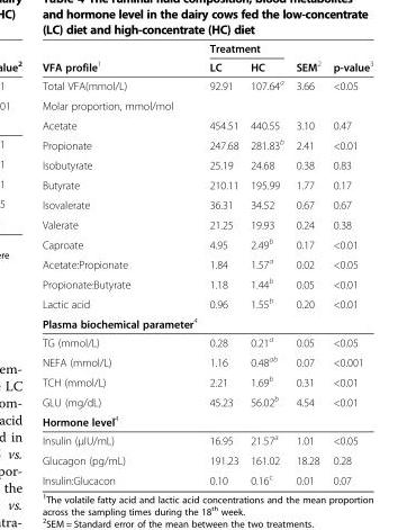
<table><thead><tr><td rowspan="2">VFA profile<sup>1</sup></td><td colspan="2">Treatment</td><td rowspan="2">SEM<sup>2</sup></td><td rowspan="2">p-value<sup>3</sup></td></tr><tr><td>LC</td><td>HC</td></tr></thead><tbody><tr><td>Total VFA(mmol/L)</td><td>92.91</td><td>107.64<sup>a</sup></td><td>3.66</td><td>&lt;0.05</td></tr><tr><td colspan="5">Molar proportion, mmol/mol</td></tr><tr><td>Acetate</td><td>454.51</td><td>440.55</td><td>3.10</td><td>0.47</td></tr><tr><td>Propionate</td><td>247.68</td><td>281.83<sup>b</sup></td><td>2.41</td><td>&lt;0.01</td></tr><tr><td>Isobutyrate</td><td>25.19</td><td>24.68</td><td>0.38</td><td>0.83</td></tr><tr><td>Butyrate</td><td>210.11</td><td>195.99</td><td>1.77</td><td>0.17</td></tr><tr><td>Isovalerate</td><td>36.31</td><td>34.52</td><td>0.67</td><td>0.67</td></tr><tr><td>Valerate</td><td>21.25</td><td>19.93</td><td>0.24</td><td>0.38</td></tr><tr><td>Caproate</td><td>4.95</td><td>2.49<sup>b</sup></td><td>0.17</td><td>&lt;0.01</td></tr><tr><td>Acetate:Propionate</td><td>1.84</td><td>1.57<sup>a</sup></td><td>0.02</td><td>&lt;0.05</td></tr><tr><td>Propionate:Butyrate</td><td>1.18</td><td>1.44<sup>b</sup></td><td>0.05</td><td>&lt;0.01</td></tr><tr><td>Lactic acid</td><td>0.96</td><td>1.55<sup>b</sup></td><td>0.20</td><td>&lt;0.01</td></tr><tr><td colspan="5">Plasma biochemical parameter<sup>4</sup></td></tr><tr><td>TG (mmol/L)</td><td>0.28</td><td>0.21<sup>a</sup></td><td>0.05</td><td>&lt;0.05</td></tr><tr><td>NEFA (mmol/L)</td><td>1.16</td><td>0.48<sup>ab</sup></td><td>0.07</td><td>&lt;0.001</td></tr><tr><td>TCH (mmol/L)</td><td>2.21</td><td>1.69<sup>b</sup></td><td>0.31</td><td>&lt;0.01</td></tr><tr><td>GLU (mg/dL)</td><td>45.23</td><td>56.02<sup>b</sup></td><td>4.54</td><td>&lt;0.01</td></tr><tr><td colspan="5">Hormone level<sup>4</sup></td></tr><tr><td>Insulin (μIU/mL)</td><td>16.95</td><td>21.57<sup>a</sup></td><td>1.01</td><td>&lt;0.05</td></tr><tr><td>Glucagon (pg/mL)</td><td>191.23</td><td>161.02</td><td>18.28</td><td>0.28</td></tr><tr><td>Insulin:Glucacon</td><td>0.10</td><td>0.16<sup>c</sup></td><td>0.01</td><td>0.07</td></tr></tbody></table>